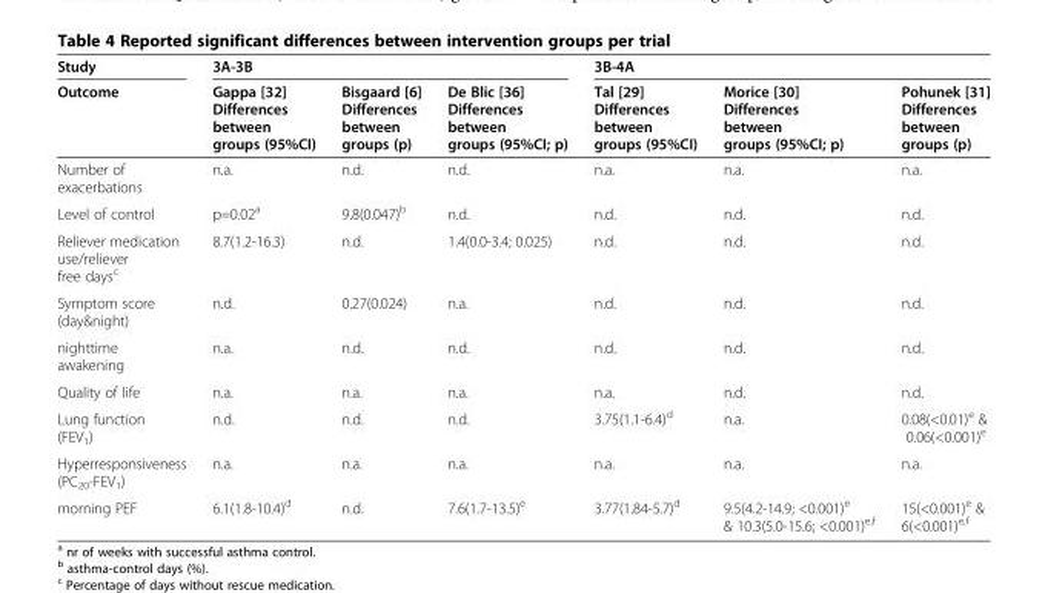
<table><thead><tr><td rowspan="2">Study Outcome</td><td colspan="3">3A-3B</td><td colspan="3">3B-4A</td></tr><tr><td>Gappa [32] Differences between groups (95%CI)</td><td>Bisgaard [6] Differences between groups (p)</td><td>De Blic [36] Differences between groups (95%CI; p)</td><td>Tal [29] Differences between groups (95%CI)</td><td>Morice [30] Differences between groups (95%CI; p)</td><td>Pohunek [31] Differences between groups (p)</td></tr></thead><tbody><tr><td>Number of exacerbations</td><td>n.a.</td><td>n.d.</td><td>n.d.</td><td>n.a.</td><td>n.a.</td><td>n.a.</td></tr><tr><td>Level of control</td><td>p=0.02<sup>a</sup></td><td>9.8(0.047)<sup>b</sup></td><td>n.d.</td><td>n.d.</td><td>n.d.</td><td>n.d.</td></tr><tr><td>Reliever medication use/reliever free days<sup>c</sup></td><td>8.7(1.2-16.3)</td><td>n.d.</td><td>1.4(0.0-3.4; 0.025)</td><td>n.d.</td><td>n.d.</td><td>n.d.</td></tr><tr><td>Symptom score (day&amp;night)</td><td>n.d.</td><td>0.27(0.024)</td><td>n.a.</td><td>n.d.</td><td>n.d.</td><td>n.d.</td></tr><tr><td>nighttime awakening</td><td>n.a.</td><td>n.d.</td><td>n.d.</td><td>n.d.</td><td>n.d.</td><td>n.d.</td></tr><tr><td>Quality of life</td><td>n.a.</td><td>n.a.</td><td>n.a.</td><td>n.a.</td><td>n.d.</td><td>n.d.</td></tr><tr><td>Lung function (FEV<sub>1</sub>)</td><td>n.d.</td><td>n.d.</td><td>n.d.</td><td>3.75(1.1-6.4)<sup>d</sup></td><td>n.a.</td><td>0.08(&lt;0.01)<sup>e</sup> &amp; 0.06(&lt;0.001)<sup>e</sup></td></tr><tr><td>Hyperresponsiveness (PC<sub>20</sub>-FEV<sub>1</sub>)</td><td>n.a.</td><td>n.a.</td><td>n.a.</td><td>n.a.</td><td>n.a.</td><td>n.a.</td></tr><tr><td>morning PEF</td><td>6.1(1.8-10.4)<sup>d</sup></td><td>n.d.</td><td>7.6(1.7-13.5)<sup>e</sup></td><td>3.77(1.84-5.7)<sup>d</sup></td><td>9.5(4.2-14.9; &lt;0.001)<sup>e</sup> &amp; 10.3(5.0-15.6; &lt;0.001)<sup>e,f</sup></td><td>15(&lt;0.001)<sup>e</sup> &amp; 6(&lt;0.001)<sup>e,f</sup></td></tr></tbody></table>